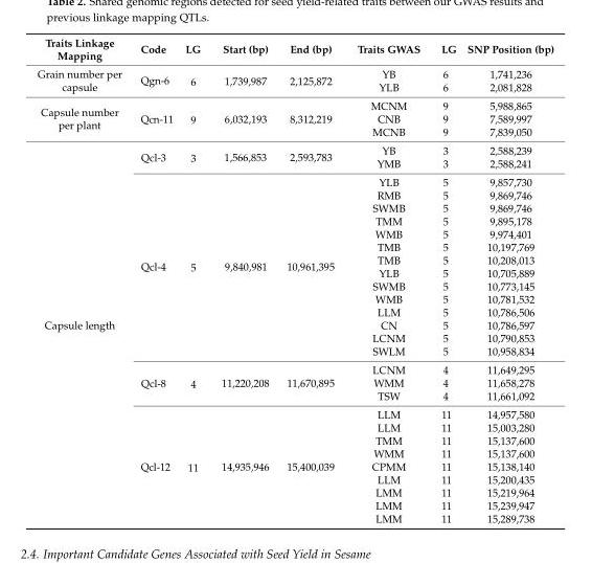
<table><thead><tr><td>Traits Linkage Mapping</td><td>Code</td><td>LG</td><td>Start (bp)</td><td>End (bp)</td><td>Traits GWAS</td><td>LG</td><td>SNP Position (bp)</td></tr></thead><tbody><tr><td rowspan="2">Grain number per capsule</td><td rowspan="2">Qgn-6</td><td rowspan="2">6</td><td rowspan="2">1,739,987</td><td rowspan="2">2,125,872</td><td>YB</td><td>6</td><td>1,741,236</td></tr><tr><td>YLB</td><td>6</td><td>2,081,828</td></tr><tr><td rowspan="3">Capsule number per plant</td><td rowspan="3">Qcn-11</td><td rowspan="3">9</td><td rowspan="3">6,032,193</td><td rowspan="3">8,312,219</td><td>MCNM</td><td>9</td><td>5,988,865</td></tr><tr><td>CNB</td><td>9</td><td>7,589,997</td></tr><tr><td>MCNB</td><td>9</td><td>7,839,050</td></tr><tr><td rowspan="28">Capsule length</td><td rowspan="2">Qcl-3</td><td rowspan="2">3</td><td rowspan="2">1,566,853</td><td rowspan="2">2,593,783</td><td>YB</td><td>3</td><td>2,588,239</td></tr><tr><td>YMB</td><td>3</td><td>2,588,241</td></tr><tr><td rowspan="14">Qcl-4</td><td rowspan="14">5</td><td rowspan="14">9,840,981</td><td rowspan="14">10,961,395</td><td>YLB</td><td>5</td><td>9,857,730</td></tr><tr><td>RMB</td><td>5</td><td>9,869,746</td></tr><tr><td>SWMB</td><td>5</td><td>9,869,746</td></tr><tr><td>TMM</td><td>5</td><td>9,895,178</td></tr><tr><td>WMB</td><td>5</td><td>9,974,401</td></tr><tr><td>TMB</td><td>5</td><td>10,197,769</td></tr><tr><td>TMB</td><td>5</td><td>10,208,013</td></tr><tr><td>YLB</td><td>5</td><td>10,705,889</td></tr><tr><td>SWMB</td><td>5</td><td>10,773,145</td></tr><tr><td>WMB</td><td>5</td><td>10,781,532</td></tr><tr><td>LLM</td><td>5</td><td>10,786,506</td></tr><tr><td>CN</td><td>5</td><td>10,786,597</td></tr><tr><td>LCNM</td><td>5</td><td>10,790,853</td></tr><tr><td>SWLM</td><td>5</td><td>10,958,834</td></tr><tr><td rowspan="3">Qcl-8</td><td rowspan="3">4</td><td rowspan="3">11,220,208</td><td rowspan="3">11,670,895</td><td>LCNM</td><td>4</td><td>11,649,295</td></tr><tr><td>WMM</td><td>4</td><td>11,658,278</td></tr><tr><td>TSW</td><td>4</td><td>11,661,092</td></tr><tr><td rowspan="9">Qcl-12</td><td rowspan="9">11</td><td rowspan="9">14,935,946</td><td rowspan="9">15,400,039</td><td>LLM</td><td>11</td><td>14,957,580</td></tr><tr><td>LLM</td><td>11</td><td>15,003,280</td></tr><tr><td>TMM</td><td>11</td><td>15,137,600</td></tr><tr><td>WMM</td><td>11</td><td>15,137,600</td></tr><tr><td>CPMM</td><td>11</td><td>15,138,140</td></tr><tr><td>LLM</td><td>11</td><td>15,200,435</td></tr><tr><td>LMM</td><td>11</td><td>15,219,964</td></tr><tr><td>LMM</td><td>11</td><td>15,239,947</td></tr><tr><td>LMM</td><td>11</td><td>15,289,738</td></tr></tbody></table>